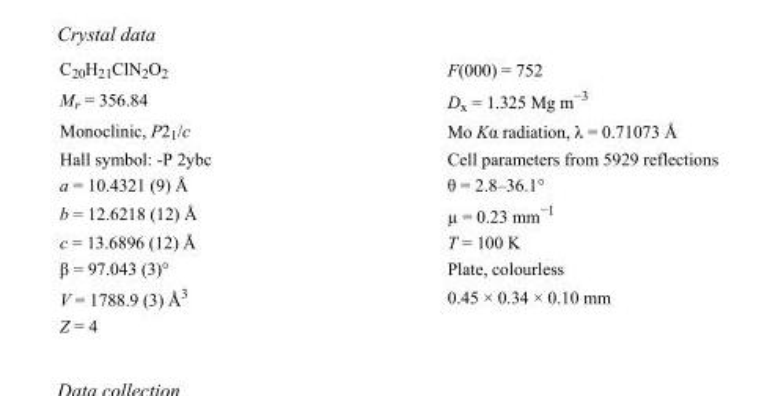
<table><tbody><tr><td>C<sub>20</sub>H<sub>21</sub>ClN<sub>2</sub>O<sub>2</sub></td><td>F(000) = 752</td></tr><tr><td>M<sub>r</sub> = 356.84</td><td>D<sub>x</sub> = 1.325 Mg m<sup>−3</sup></td></tr><tr><td>Monoclinic, P2<sub>1</sub>/c</td><td>Mo Kα radiation, λ = 0.71073 Å</td></tr><tr><td>Hall symbol: -P 2ybc</td><td>Cell parameters from 5929 reflections</td></tr><tr><td>a = 10.4321 (9) Å</td><td>θ = 2.8–36.1°</td></tr><tr><td>b = 12.6218 (12) Å</td><td>µ = 0.23 mm<sup>−1</sup></td></tr><tr><td>c = 13.6896 (12) Å</td><td>T = 100 K</td></tr><tr><td>β = 97.043 (3)°</td><td>Plate, colourless</td></tr><tr><td>V = 1788.9 (3) Å<sup>3</sup></td><td>0.45 × 0.34 × 0.10 mm</td></tr><tr><td>Z = 4</td><td></td></tr></tbody></table>